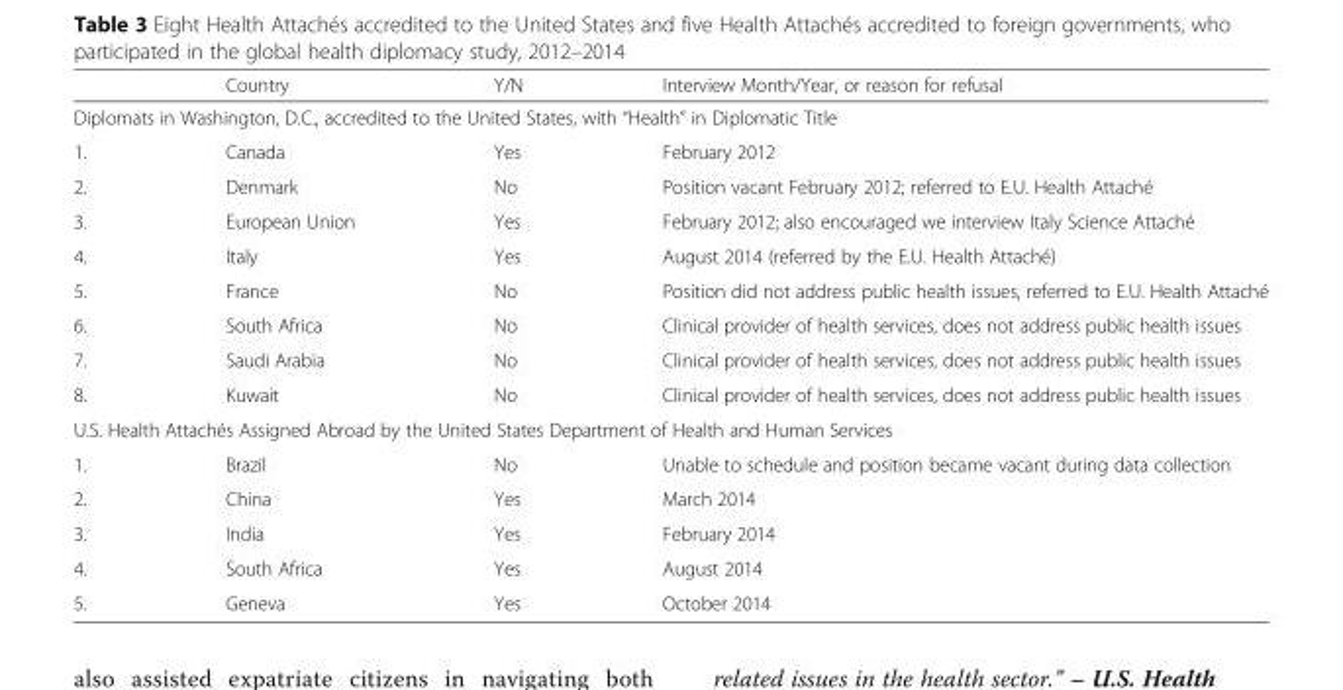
<table><thead><tr><td></td><td>Country</td><td>Y/N</td><td>Interview Month/Year, or reason for refusal</td></tr></thead><tbody><tr><td colspan="4">Diplomats in Washington, D.C., accredited to the United States, with “Health” in Diplomatic Title</td></tr><tr><td>1.</td><td>Canada</td><td>Yes</td><td>February 2012</td></tr><tr><td>2.</td><td>Denmark</td><td>No</td><td>Position vacant February 2012; referred to E.U. Health Attaché</td></tr><tr><td>3.</td><td>European Union</td><td>Yes</td><td>February 2012; also encouraged we interview Italy Science Attaché</td></tr><tr><td>4.</td><td>Italy</td><td>Yes</td><td>August 2014 (referred by the E.U. Health Attaché)</td></tr><tr><td>5.</td><td>France</td><td>No</td><td>Position did not address public health issues, referred to E.U. Health Attaché</td></tr><tr><td>6.</td><td>South Africa</td><td>No</td><td>Clinical provider of health services, does not address public health issues</td></tr><tr><td>7.</td><td>Saudi Arabia</td><td>No</td><td>Clinical provider of health services, does not address public health issues</td></tr><tr><td>8.</td><td>Kuwait</td><td>No</td><td>Clinical provider of health services, does not address public health issues</td></tr><tr><td colspan="4">U.S. Health Attachés Assigned Abroad by the United States Department of Health and Human Services</td></tr><tr><td>1.</td><td>Brazil</td><td>No</td><td>Unable to schedule and position became vacant during data collection</td></tr><tr><td>2.</td><td>China</td><td>Yes</td><td>March 2014</td></tr><tr><td>3.</td><td>India</td><td>Yes</td><td>February 2014</td></tr><tr><td>4.</td><td>South Africa</td><td>Yes</td><td>August 2014</td></tr><tr><td>5.</td><td>Geneva</td><td>Yes</td><td>October 2014</td></tr></tbody></table>